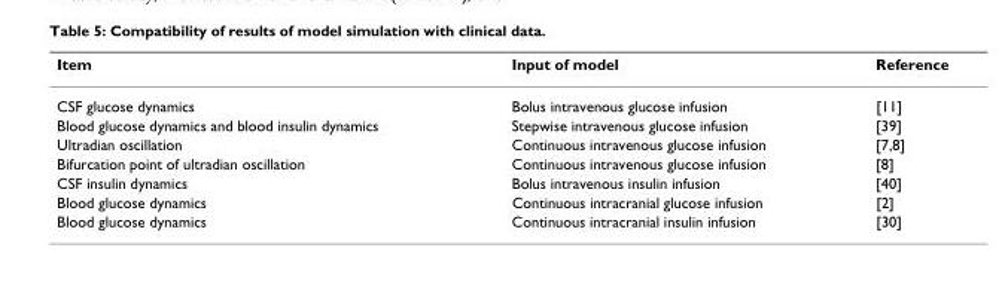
<table><thead><tr><td>Item</td><td>Input of model</td><td>Reference</td></tr></thead><tbody><tr><td>CSF glucose dynamics</td><td>Bolus intravenous glucose infusion</td><td>[11]</td></tr><tr><td>Blood glucose dynamics and blood insulin dynamics</td><td>Stepwise intravenous glucose infusion</td><td>[39]</td></tr><tr><td>Ultradian oscillation</td><td>Continuous intravenous glucose infusion</td><td>[7,8]</td></tr><tr><td>Bifurcation point of ultradian oscillation</td><td>Continuous intravenous glucose infusion</td><td>[8]</td></tr><tr><td>CSF insulin dynamics</td><td>Bolus intravenous insulin infusion</td><td>[40]</td></tr><tr><td>Blood glucose dynamics</td><td>Continuous intracranial glucose infusion</td><td>[2]</td></tr><tr><td>Blood glucose dynamics</td><td>Continuous intracranial insulin infusion</td><td>[30]</td></tr></tbody></table>